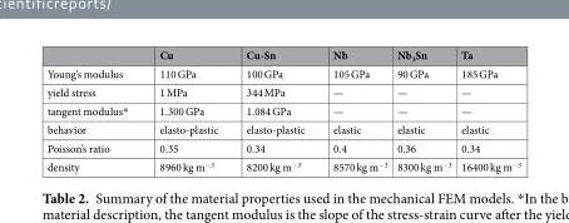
<table><thead><tr><td></td><td>Cu</td><td>Cu-Sn</td><td>Nb</td><td>Nb<sub>3</sub>Sn</td><td>Ta</td></tr></thead><tbody><tr><td>Young’s modulus</td><td>110 GPa</td><td>100 GPa</td><td>105 GPa</td><td>90 GPa</td><td>185 GPa</td></tr><tr><td>yield stress</td><td>1 MPa</td><td>344 MPa</td><td>—</td><td>—</td><td>—</td></tr><tr><td>tangent modulus*</td><td>1.300 GPa</td><td>1.084 GPa</td><td>—</td><td>—</td><td>—</td></tr><tr><td>behavior</td><td>elasto-plastic</td><td>elasto-plastic</td><td>elastic</td><td>elastic</td><td>elastic</td></tr><tr><td>Poisson’s ratio</td><td>0.35</td><td>0.34</td><td>0.4</td><td>0.36</td><td>0.34</td></tr><tr><td>density</td><td>8960 kg m<sup>−3</sup></td><td>8200 kg m<sup>−3</sup></td><td>8570 kg m<sup>−3</sup></td><td>8300 kg m<sup>−3</sup></td><td>16400 kg m<sup>−3</sup></td></tr></tbody></table>